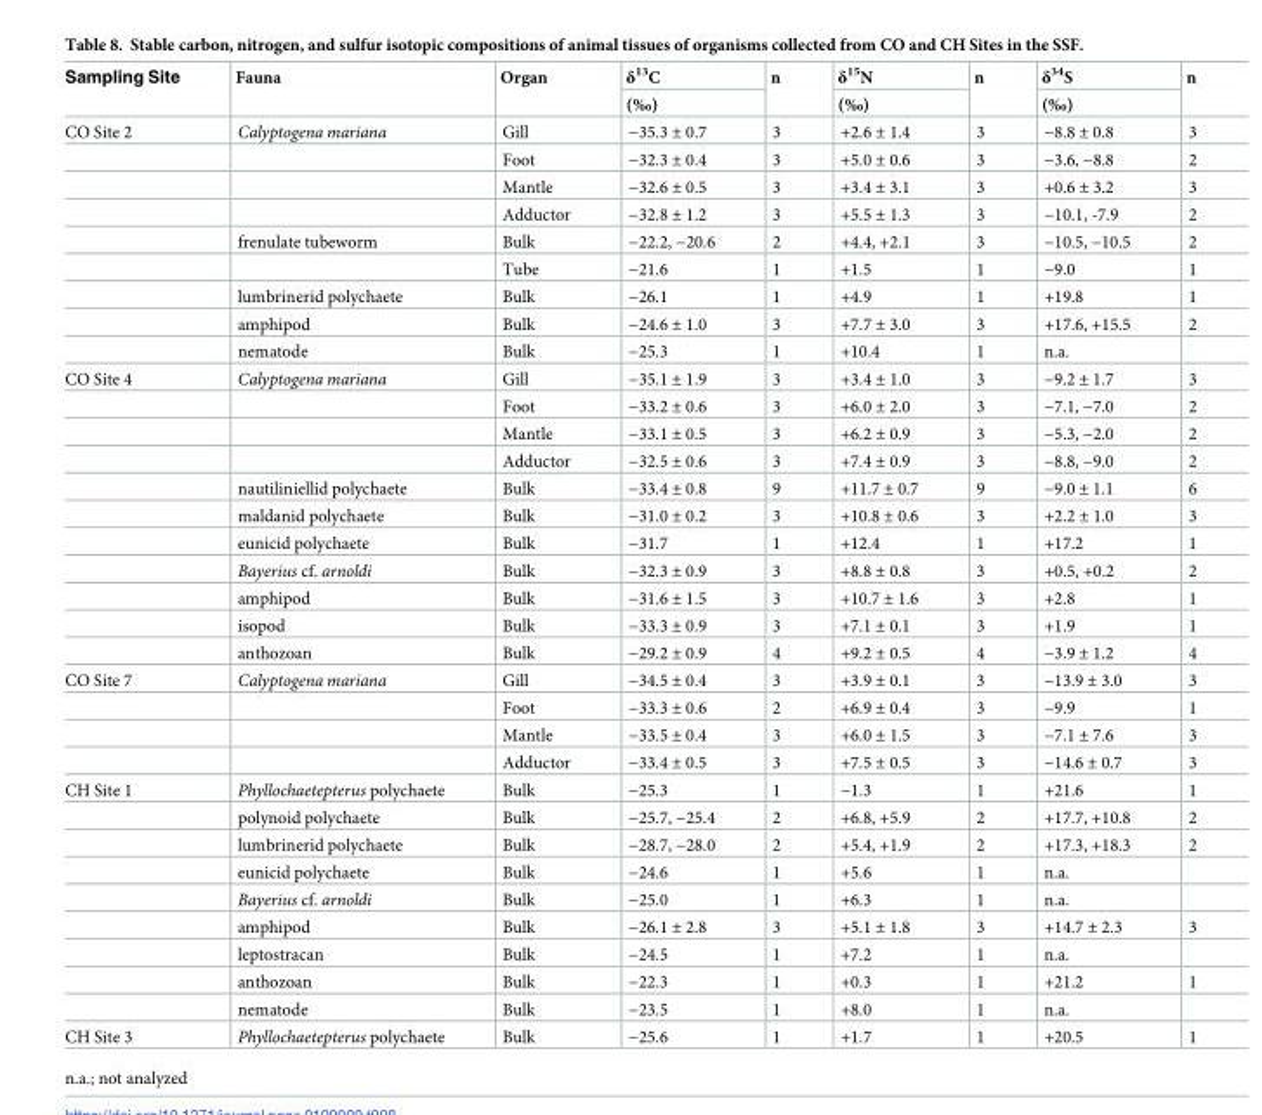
<table><thead><tr><td rowspan="2">Sampling Site</td><td rowspan="2">Fauna</td><td rowspan="2">Organ</td><td rowspan="2">δ<sup>13</sup>C (‰)</td><td rowspan="2">n</td><td rowspan="2">δ<sup>15</sup>N (‰)</td><td rowspan="2">n</td><td rowspan="2">δ<sup>34</sup>S (‰)</td><td rowspan="2">n</td></tr><tr></tr></thead><tbody><tr><td rowspan="9">CO Site 2</td><td>Calyptogena mariana</td><td>Gill</td><td>−35.3 ± 0.7</td><td>3</td><td>+2.6 ± 1.4</td><td>3</td><td>−8.8 ± 0.8</td><td>3</td></tr><tr><td></td><td>Foot</td><td>−32.3 ± 0.4</td><td>3</td><td>+5.0 ± 0.6</td><td>3</td><td>−3.6, −8.8</td><td>2</td></tr><tr><td></td><td>Mantle</td><td>−32.6 ± 0.5</td><td>3</td><td>+3.4 ± 3.1</td><td>3</td><td>+0.6 ± 3.2</td><td>3</td></tr><tr><td></td><td>Adductor</td><td>−32.8 ± 1.2</td><td>3</td><td>+5.5 ± 1.3</td><td>3</td><td>−10.1, -7.9</td><td>2</td></tr><tr><td>frenulate tubeworm</td><td>Bulk</td><td>−22.2, −20.6</td><td>2</td><td>+4.4, +2.1</td><td>3</td><td>−10.5, −10.5</td><td>2</td></tr><tr><td></td><td>Tube</td><td>−21.6</td><td>1</td><td>+1.5</td><td>1</td><td>−9.0</td><td>1</td></tr><tr><td>lumbrinerid polychaete</td><td>Bulk</td><td>−26.1</td><td>1</td><td>+4.9</td><td>1</td><td>+19.8</td><td>1</td></tr><tr><td>amphipod</td><td>Bulk</td><td>−24.6 ± 1.0</td><td>3</td><td>+7.7 ± 3.0</td><td>3</td><td>+17.6, +15.5</td><td>2</td></tr><tr><td>nematode</td><td>Bulk</td><td>−25.3</td><td>1</td><td>+10.4</td><td>1</td><td>n.a.</td><td></td></tr><tr><td rowspan="11">CO Site 4</td><td>Calyptogena mariana</td><td>Gill</td><td>−35.1 ± 1.9</td><td>3</td><td>+3.4 ± 1.0</td><td>3</td><td>−9.2 ± 1.7</td><td>3</td></tr><tr><td></td><td>Foot</td><td>−33.2 ± 0.6</td><td>3</td><td>+6.0 ± 2.0</td><td>3</td><td>−7.1, −7.0</td><td>2</td></tr><tr><td></td><td>Mantle</td><td>−33.1 ± 0.5</td><td>3</td><td>+6.2 ± 0.9</td><td>3</td><td>−5.3, −2.0</td><td>2</td></tr><tr><td></td><td>Adductor</td><td>−32.5 ± 0.6</td><td>3</td><td>+7.4 ± 0.9</td><td>3</td><td>−8.8, −9.0</td><td>2</td></tr><tr><td>nautiliniellid polychaete</td><td>Bulk</td><td>−33.4 ± 0.8</td><td>9</td><td>+11.7 ± 0.7</td><td>9</td><td>−9.0 ± 1.1</td><td>6</td></tr><tr><td>maldanid polychaete</td><td>Bulk</td><td>−31.0 ± 0.2</td><td>3</td><td>+10.8 ± 0.6</td><td>3</td><td>+2.2 ± 1.0</td><td>3</td></tr><tr><td>eunicid polychaete</td><td>Bulk</td><td>−31.7</td><td>1</td><td>+12.4</td><td>1</td><td>+17.2</td><td>1</td></tr><tr><td>Bayerius cf. arnoldi</td><td>Bulk</td><td>−32.3 ± 0.9</td><td>3</td><td>+8.8 ± 0.8</td><td>3</td><td>+0.5, +0.2</td><td>2</td></tr><tr><td>amphipod</td><td>Bulk</td><td>−31.6 ± 1.5</td><td>3</td><td>+10.7 ± 1.6</td><td>3</td><td>+2.8</td><td>1</td></tr><tr><td>isopod</td><td>Bulk</td><td>−33.3 ± 0.9</td><td>3</td><td>+7.1 ± 0.1</td><td>3</td><td>+1.9</td><td>1</td></tr><tr><td>anthozoan</td><td>Bulk</td><td>−29.2 ± 0.9</td><td>4</td><td>+9.2 ± 0.5</td><td>4</td><td>−3.9 ± 1.2</td><td>4</td></tr><tr><td rowspan="4">CO Site 7</td><td>Calyptogena mariana</td><td>Gill</td><td>−34.5 ± 0.4</td><td>3</td><td>+3.9 ± 0.1</td><td>3</td><td>−13.9 ± 3.0</td><td>3</td></tr><tr><td></td><td>Foot</td><td>−33.3 ± 0.6</td><td>2</td><td>+6.9 ± 0.4</td><td>3</td><td>−9.9</td><td>1</td></tr><tr><td></td><td>Mantle</td><td>−33.5 ± 0.4</td><td>3</td><td>+6.0 ± 1.5</td><td>3</td><td>−7.1 ± 7.6</td><td>3</td></tr><tr><td></td><td>Adductor</td><td>−33.4 ± 0.5</td><td>3</td><td>+7.5 ± 0.5</td><td>3</td><td>−14.6 ± 0.7</td><td>3</td></tr><tr><td rowspan="9">CH Site 1</td><td>Phyllochaetepterus polychaete</td><td>Bulk</td><td>−25.3</td><td>1</td><td>−1.3</td><td>1</td><td>+21.6</td><td>1</td></tr><tr><td>polynoid polychaete</td><td>Bulk</td><td>−25.7, −25.4</td><td>2</td><td>+6.8, +5.9</td><td>2</td><td>+17.7, +10.8</td><td>2</td></tr><tr><td>lumbrinerid polychaete</td><td>Bulk</td><td>−28.7, −28.0</td><td>2</td><td>+5.4, +1.9</td><td>2</td><td>+17.3, +18.3</td><td>2</td></tr><tr><td>eunicid polychaete</td><td>Bulk</td><td>−24.6</td><td>1</td><td>+5.6</td><td>1</td><td>n.a.</td><td></td></tr><tr><td>Bayerius cf. arnoldi</td><td>Bulk</td><td>−25.0</td><td>1</td><td>+6.3</td><td>1</td><td>n.a.</td><td></td></tr><tr><td>amphipod</td><td>Bulk</td><td>−26.1 ± 2.8</td><td>3</td><td>+5.1 ± 1.8</td><td>3</td><td>+14.7 ± 2.3</td><td>3</td></tr><tr><td>leptostracan</td><td>Bulk</td><td>−24.5</td><td>1</td><td>+7.2</td><td>1</td><td>n.a.</td><td></td></tr><tr><td>anthozoan</td><td>Bulk</td><td>−22.3</td><td>1</td><td>+0.3</td><td>1</td><td>+21.2</td><td>1</td></tr><tr><td>nematode</td><td>Bulk</td><td>−23.5</td><td>1</td><td>+8.0</td><td>1</td><td>n.a.</td><td></td></tr><tr><td>CH Site 3</td><td>Phyllochaetepterus polychaete</td><td>Bulk</td><td>−25.6</td><td>1</td><td>+1.7</td><td>1</td><td>+20.5</td><td>1</td></tr></tbody></table>